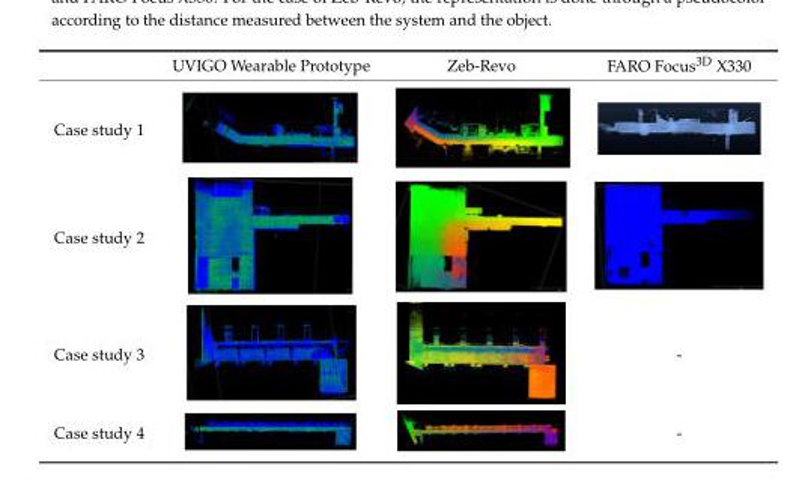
<table><thead><tr><td></td><td>UVIGO Wearable Prototype</td><td>Zeb-Revo</td><td>FARO Focus<sup>3D</sup> X330</td></tr></thead><tbody><tr><td colspan="4">Case study 1</td></tr><tr><td colspan="4">Case study 2</td></tr><tr><td>Case study 3</td><td></td><td></td><td>-</td></tr><tr><td>Case study 4</td><td></td><td></td><td>-</td></tr></tbody></table>